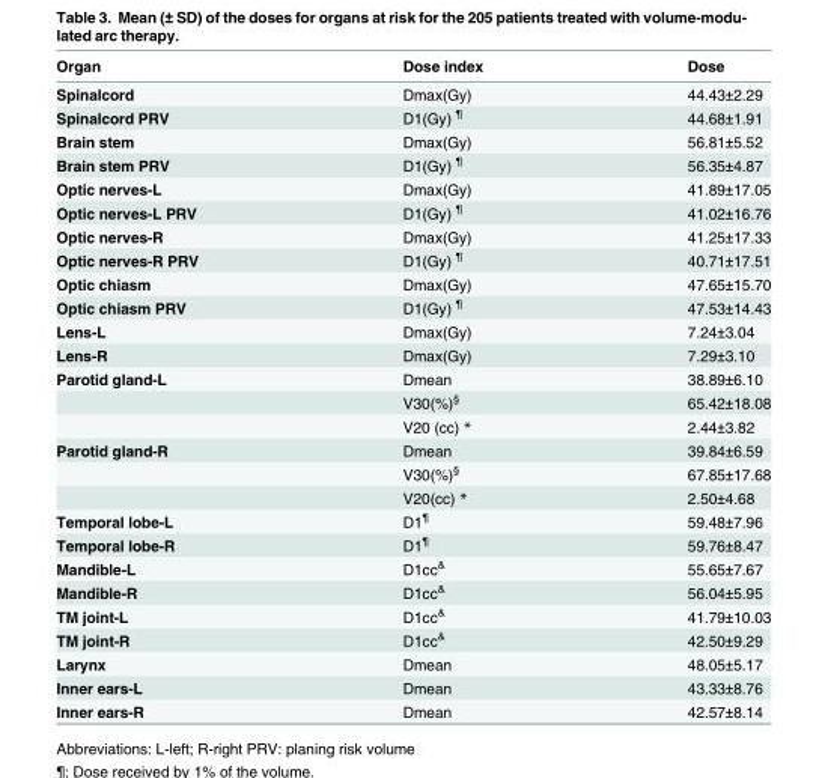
<table><thead><tr><td>Organ</td><td>Dose index</td><td>Dose</td></tr></thead><tbody><tr><td>Spinalcord</td><td>Dmax(Gy)</td><td>44.43±2.29</td></tr><tr><td>Spinalcord PRV</td><td>D1(Gy) <sup>¶</sup></td><td>44.68±1.91</td></tr><tr><td>Brain stem</td><td>Dmax(Gy)</td><td>56.81±5.52</td></tr><tr><td>Brain stem PRV</td><td>D1(Gy) <sup>¶</sup></td><td>56.35±4.87</td></tr><tr><td>Optic nerves-L</td><td>Dmax(Gy)</td><td>41.89±17.05</td></tr><tr><td>Optic nerves-L PRV</td><td>D1(Gy) <sup>¶</sup></td><td>41.02±16.76</td></tr><tr><td>Optic nerves-R</td><td>Dmax(Gy)</td><td>41.25±17.33</td></tr><tr><td>Optic nerves-R PRV</td><td>D1(Gy) <sup>¶</sup></td><td>40.71±17.51</td></tr><tr><td>Optic chiasm</td><td>Dmax(Gy)</td><td>47.65±15.70</td></tr><tr><td>Optic chiasm PRV</td><td>D1(Gy) <sup>¶</sup></td><td>47.53±14.43</td></tr><tr><td>Lens-L</td><td>Dmax(Gy)</td><td>7.24±3.04</td></tr><tr><td>Lens-R</td><td>Dmax(Gy)</td><td>7.29±3.10</td></tr><tr><td rowspan="3">Parotid gland-L</td><td>Dmean</td><td>38.89±6.10</td></tr><tr><td>V30(%)<sup>§</sup></td><td>65.42±18.08</td></tr><tr><td>V20 (cc) *</td><td>2.44±3.82</td></tr><tr><td rowspan="3">Parotid gland-R</td><td>Dmean</td><td>39.84±6.59</td></tr><tr><td>V30(%)<sup>§</sup></td><td>67.85±17.68</td></tr><tr><td>V20(cc) *</td><td>2.50±4.68</td></tr><tr><td>Temporal lobe-L</td><td>D1<sup>¶</sup></td><td>59.48±7.96</td></tr><tr><td>Temporal lobe-R</td><td>D1<sup>¶</sup></td><td>59.76±8.47</td></tr><tr><td>Mandible-L</td><td>D1cc<sup>&amp;</sup></td><td>55.65±7.67</td></tr><tr><td>Mandible-R</td><td>D1cc<sup>&amp;</sup></td><td>56.04±5.95</td></tr><tr><td>TM joint-L</td><td>D1cc<sup>&amp;</sup></td><td>41.79±10.03</td></tr><tr><td>TM joint-R</td><td>D1cc<sup>&amp;</sup></td><td>42.50±9.29</td></tr><tr><td>Larynx</td><td>Dmean</td><td>48.05±5.17</td></tr><tr><td>Inner ears-L</td><td>Dmean</td><td>43.33±8.76</td></tr><tr><td>Inner ears-R</td><td>Dmean</td><td>42.57±8.14</td></tr></tbody></table>